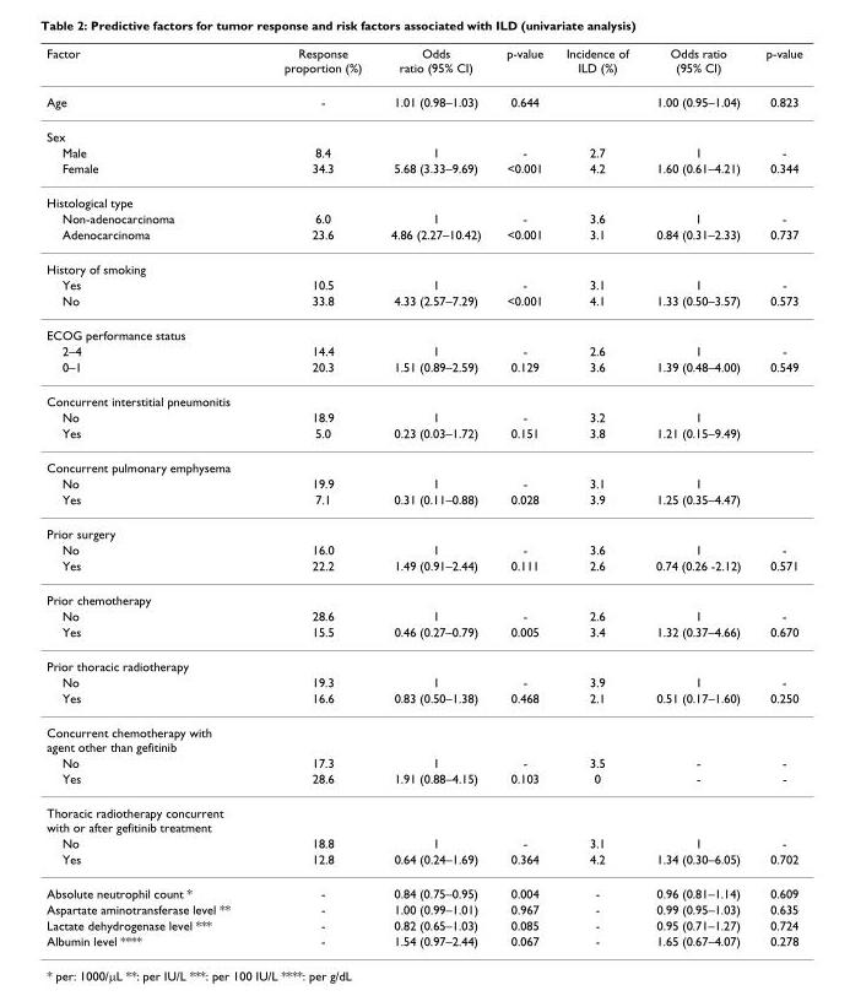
<table><thead><tr><td>Factor</td><td>Response proportion (%)</td><td>Odds ratio (95% CI)</td><td>p-value</td><td>Incidence of ILD (%)</td><td>Odds ratio (95% CI)</td><td>p-value</td></tr></thead><tbody><tr><td>Age</td><td>-</td><td>1.01 (0.98–1.03)</td><td>0.644</td><td></td><td>1.00 (0.95–1.04)</td><td>0.823</td></tr><tr><td colspan="7">Sex</td></tr><tr><td>Male</td><td>8.4</td><td>1</td><td>-</td><td>2.7</td><td>1</td><td>-</td></tr><tr><td>Female</td><td>34.3</td><td>5.68 (3.33–9.69)</td><td>&lt;0.001</td><td>4.2</td><td>1.60 (0.61–4.21)</td><td>0.344</td></tr><tr><td colspan="7">Histological type</td></tr><tr><td>Non-adenocarcinoma</td><td>6.0</td><td>1</td><td>-</td><td>3.6</td><td>1</td><td>-</td></tr><tr><td>Adenocarcinoma</td><td>23.6</td><td>4.86 (2.27–10.42)</td><td>&lt;0.001</td><td>3.1</td><td>0.84 (0.31–2.33)</td><td>0.737</td></tr><tr><td colspan="7">History of smoking</td></tr><tr><td>Yes</td><td>10.5</td><td>1</td><td>-</td><td>3.1</td><td>1</td><td>-</td></tr><tr><td>No</td><td>33.8</td><td>4.33 (2.57–7.29)</td><td>&lt;0.001</td><td>4.1</td><td>1.33 (0.50–3.57)</td><td>0.573</td></tr><tr><td colspan="7">ECOG performance status</td></tr><tr><td>2–4</td><td>14.4</td><td>1</td><td>-</td><td>2.6</td><td>1</td><td>-</td></tr><tr><td>0–1</td><td>20.3</td><td>1.51 (0.89–2.59)</td><td>0.129</td><td>3.6</td><td>1.39 (0.48–4.00)</td><td>0.549</td></tr><tr><td colspan="7">Concurrent interstitial pneumonitis</td></tr><tr><td>No</td><td>18.9</td><td>1</td><td>-</td><td>3.2</td><td>1</td><td></td></tr><tr><td>Yes</td><td>5.0</td><td>0.23 (0.03–1.72)</td><td>0.151</td><td>3.8</td><td>1.21 (0.15–9.49)</td><td></td></tr><tr><td colspan="7">Concurrent pulmonary emphysema</td></tr><tr><td>No</td><td>19.9</td><td>1</td><td>-</td><td>3.1</td><td>1</td><td></td></tr><tr><td>Yes</td><td>7.1</td><td>0.31 (0.11–0.88)</td><td>0.028</td><td>3.9</td><td>1.25 (0.35–4.47)</td><td></td></tr><tr><td colspan="7">Prior surgery</td></tr><tr><td>No</td><td>16.0</td><td>1</td><td>-</td><td>3.6</td><td>1</td><td>-</td></tr><tr><td>Yes</td><td>22.2</td><td>1.49 (0.91–2.44)</td><td>0.111</td><td>2.6</td><td>0.74 (0.26 -2.12)</td><td>0.571</td></tr><tr><td colspan="7">Prior chemotherapy</td></tr><tr><td>No</td><td>28.6</td><td>1</td><td>-</td><td>2.6</td><td>1</td><td>-</td></tr><tr><td>Yes</td><td>15.5</td><td>0.46 (0.27–0.79)</td><td>0.005</td><td>3.4</td><td>1.32 (0.37–4.66)</td><td>0.670</td></tr><tr><td colspan="7">Prior thoracic radiotherapy</td></tr><tr><td>No</td><td>19.3</td><td>1</td><td>-</td><td>3.9</td><td>1</td><td>-</td></tr><tr><td>Yes</td><td>16.6</td><td>0.83 (0.50–1.38)</td><td>0.468</td><td>2.1</td><td>0.51 (0.17–1.60)</td><td>0.250</td></tr><tr><td colspan="7">Concurrent chemotherapy with agent other than gefitinib</td></tr><tr><td>No</td><td>17.3</td><td>1</td><td>-</td><td>3.5</td><td>-</td><td>-</td></tr><tr><td>Yes</td><td>28.6</td><td>1.91 (0.88–4.15)</td><td>0.103</td><td>0</td><td>-</td><td>-</td></tr><tr><td colspan="7">Thoracic radiotherapy concurrent with or after gefitinib treatment</td></tr><tr><td>No</td><td>18.8</td><td>1</td><td>-</td><td>3.1</td><td>1</td><td>-</td></tr><tr><td>Yes</td><td>12.8</td><td>0.64 (0.24–1.69)</td><td>0.364</td><td>4.2</td><td>1.34 (0.30–6.05)</td><td>0.702</td></tr><tr><td>Absolute neutrophil count *</td><td>-</td><td>0.84 (0.75–0.95)</td><td>0.004</td><td>-</td><td>0.96 (0.81–1.14)</td><td>0.609</td></tr><tr><td>Aspartate aminotransferase level **</td><td>-</td><td>1.00 (0.99–1.01)</td><td>0.967</td><td>-</td><td>0.99 (0.95–1.03)</td><td>0.635</td></tr><tr><td>Lactate dehydrogenase level ***</td><td>-</td><td>0.82 (0.65–1.03)</td><td>0.085</td><td>-</td><td>0.95 (0.71–1.27)</td><td>0.724</td></tr><tr><td>Albumin level ****</td><td>-</td><td>1.54 (0.97–2.44)</td><td>0.067</td><td>-</td><td>1.65 (0.67–4.07)</td><td>0.278</td></tr></tbody></table>